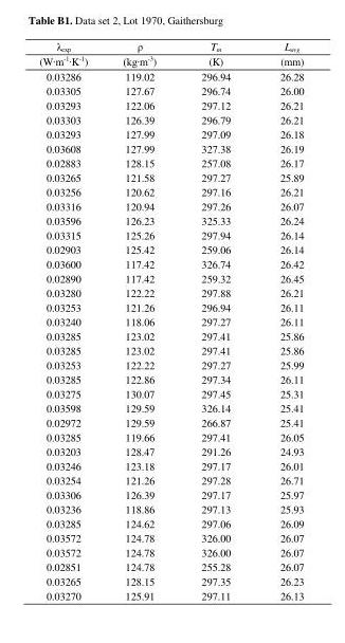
<table><thead><tr><td rowspan="2">λexp (W∙m-1∙K-1)</td><td rowspan="2">ρ (kg∙m-3)</td><td rowspan="2">Tm (K)</td><td rowspan="2">Lavg (mm)</td></tr><tr></tr></thead><tbody><tr><td>0.03286</td><td>119.02</td><td>296.94</td><td>26.28</td></tr><tr><td>0.03305</td><td>127.67</td><td>296.74</td><td>26.00</td></tr><tr><td>0.03293</td><td>122.06</td><td>297.12</td><td>26.21</td></tr><tr><td>0.03303</td><td>126.39</td><td>296.79</td><td>26.21</td></tr><tr><td>0.03293</td><td>127.99</td><td>297.09</td><td>26.18</td></tr><tr><td>0.03608</td><td>127.99</td><td>327.38</td><td>26.19</td></tr><tr><td>0.02883</td><td>128.15</td><td>257.08</td><td>26.17</td></tr><tr><td>0.03265</td><td>121.58</td><td>297.27</td><td>25.89</td></tr><tr><td>0.03256</td><td>120.62</td><td>297.16</td><td>26.21</td></tr><tr><td>0.03316</td><td>120.94</td><td>297.26</td><td>26.07</td></tr><tr><td>0.03596</td><td>126.23</td><td>325.33</td><td>26.24</td></tr><tr><td>0.03315</td><td>125.26</td><td>297.94</td><td>26.14</td></tr><tr><td>0.02903</td><td>125.42</td><td>259.06</td><td>26.14</td></tr><tr><td>0.03600</td><td>117.42</td><td>326.74</td><td>26.42</td></tr><tr><td>0.02890</td><td>117.42</td><td>259.32</td><td>26.45</td></tr><tr><td>0.03280</td><td>122.22</td><td>297.88</td><td>26.21</td></tr><tr><td>0.03253</td><td>121.26</td><td>296.94</td><td>26.11</td></tr><tr><td>0.03240</td><td>118.06</td><td>297.27</td><td>26.11</td></tr><tr><td>0.03285</td><td>123.02</td><td>297.41</td><td>25.86</td></tr><tr><td>0.03285</td><td>123.02</td><td>297.41</td><td>25.86</td></tr><tr><td>0.03253</td><td>122.22</td><td>297.27</td><td>25.99</td></tr><tr><td>0.03285</td><td>122.86</td><td>297.34</td><td>26.11</td></tr><tr><td>0.03275</td><td>130.07</td><td>297.45</td><td>25.31</td></tr><tr><td>0.03598</td><td>129.59</td><td>326.14</td><td>25.41</td></tr><tr><td>0.02972</td><td>129.59</td><td>266.87</td><td>25.41</td></tr><tr><td>0.03285</td><td>119.66</td><td>297.41</td><td>26.05</td></tr><tr><td>0.03203</td><td>128.47</td><td>291.26</td><td>24.93</td></tr><tr><td>0.03246</td><td>123.18</td><td>297.17</td><td>26.01</td></tr><tr><td>0.03254</td><td>121.26</td><td>297.28</td><td>26.71</td></tr><tr><td>0.03306</td><td>126.39</td><td>297.17</td><td>25.97</td></tr><tr><td>0.03236</td><td>118.86</td><td>297.13</td><td>25.93</td></tr><tr><td>0.03285</td><td>124.62</td><td>297.06</td><td>26.09</td></tr><tr><td>0.03572</td><td>124.78</td><td>326.00</td><td>26.07</td></tr><tr><td>0.03572</td><td>124.78</td><td>326.00</td><td>26.07</td></tr><tr><td>0.02851</td><td>124.78</td><td>255.28</td><td>26.07</td></tr><tr><td>0.03265</td><td>128.15</td><td>297.35</td><td>26.23</td></tr><tr><td>0.03270</td><td>125.91</td><td>297.11</td><td>26.13</td></tr></tbody></table>